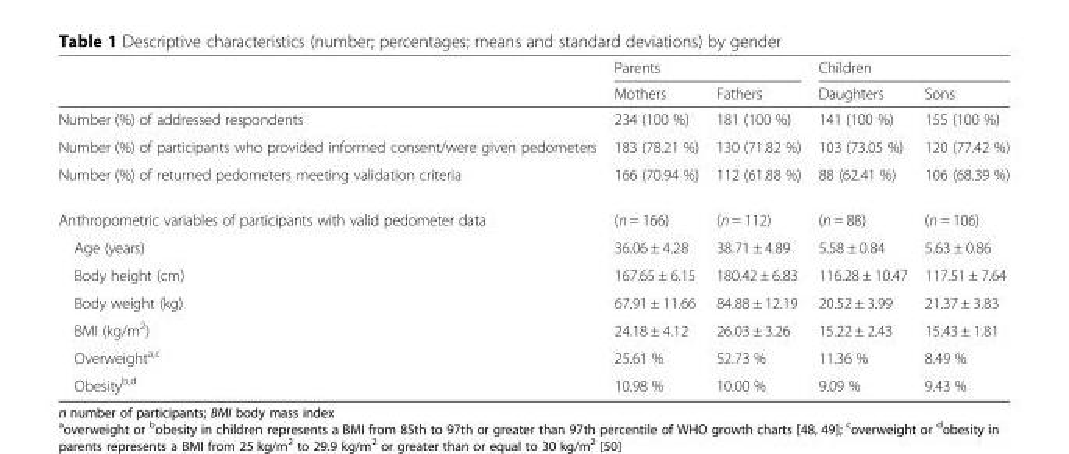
<table><thead><tr><td rowspan="2"></td><td colspan="2">Parents</td><td colspan="2">Children</td></tr><tr><td>Mothers</td><td>Fathers</td><td>Daughters</td><td>Sons</td></tr></thead><tbody><tr><td>Number (%) of addressed respondents</td><td>234 (100 %)</td><td>181 (100 %)</td><td>141 (100 %)</td><td>155 (100 %)</td></tr><tr><td>Number (%) of participants who provided informed consent/were given pedometers</td><td>183 (78.21 %)</td><td>130 (71.82 %)</td><td>103 (73.05 %)</td><td>120 (77.42 %)</td></tr><tr><td>Number (%) of returned pedometers meeting validation criteria</td><td>166 (70.94 %)</td><td>112 (61.88 %)</td><td>88 (62.41 %)</td><td>106 (68.39 %)</td></tr><tr><td>Anthropometric variables of participants with valid pedometer data</td><td>(n = 166)</td><td>(n = 112)</td><td>(n = 88)</td><td>(n = 106)</td></tr><tr><td>Age (years)</td><td>36.06 ± 4.28</td><td>38.71 ± 4.89</td><td>5.58 ± 0.84</td><td>5.63 ± 0.86</td></tr><tr><td>Body height (cm)</td><td>167.65 ± 6.15</td><td>180.42 ± 6.83</td><td>116.28 ± 10.47</td><td>117.51 ± 7.64</td></tr><tr><td>Body weight (kg)</td><td>67.91 ± 11.66</td><td>84.88 ± 12.19</td><td>20.52 ± 3.99</td><td>21.37 ± 3.83</td></tr><tr><td>BMI (kg/m<sup>2</sup>)</td><td>24.18 ± 4.12</td><td>26.03 ± 3.26</td><td>15.22 ± 2.43</td><td>15.43 ± 1.81</td></tr><tr><td>Overweight<sup>a,c</sup></td><td>25.61 %</td><td>52.73 %</td><td>11.36 %</td><td>8.49 %</td></tr><tr><td>Obesity<sup>b,d</sup></td><td>10.98 %</td><td>10.00 %</td><td>9.09 %</td><td>9.43 %</td></tr></tbody></table>